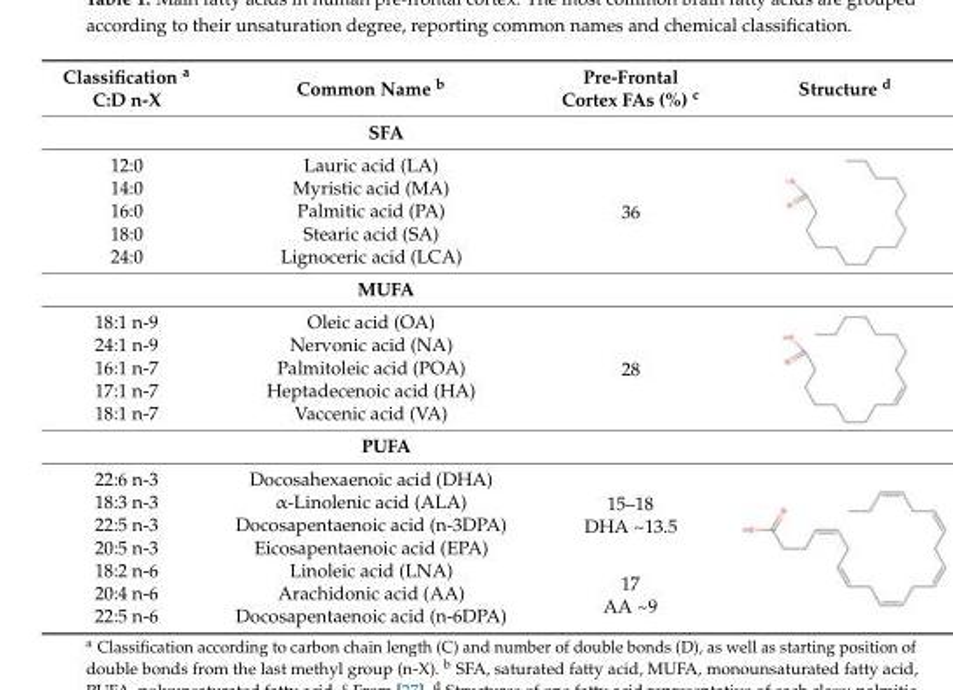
<table><thead><tr><td>Classification <sup>a</sup> C:D n-X</td><td>Common Name <sup>b</sup></td><td>Pre-Frontal Cortex FAs (%) <sup>c</sup></td><td>Structure <sup>d</sup></td></tr></thead><tbody><tr><td colspan="4">SFA</td></tr><tr><td>12:0</td><td>Lauric acid (LA)</td><td rowspan="5">36</td><td rowspan="5"></td></tr><tr><td>14:0</td><td>Myristic acid (MA)</td></tr><tr><td>16:0</td><td>Palmitic acid (PA)</td></tr><tr><td>18:0</td><td>Stearic acid (SA)</td></tr><tr><td>24:0</td><td>Lignoceric acid (LCA)</td></tr><tr><td colspan="4">MUFA</td></tr><tr><td>18:1 n-9</td><td>Oleic acid (OA)</td><td rowspan="5">28</td><td rowspan="5"></td></tr><tr><td>24:1 n-9</td><td>Nervonic acid (NA)</td></tr><tr><td>16:1 n-7</td><td>Palmitoleic acid (POA)</td></tr><tr><td>17:1 n-7</td><td>Heptadecenoic acid (HA)</td></tr><tr><td>18:1 n-7</td><td>Vaccenic acid (VA)</td></tr><tr><td colspan="4">PUFA</td></tr><tr><td>22:6 n-3</td><td>Docosahexaenoic acid (DHA)</td><td rowspan="4">15–18 DHA ~13.5</td><td rowspan="7"></td></tr><tr><td>18:3 n-3</td><td>α-Linolenic acid (ALA)</td></tr><tr><td>22:5 n-3</td><td>Docosapentaenoic acid (n-3DPA)</td></tr><tr><td>20:5 n-3</td><td>Eicosapentaenoic acid (EPA)</td></tr><tr><td>18:2 n-6</td><td>Linoleic acid (LNA)</td><td rowspan="3">17 AA ~9</td></tr><tr><td>20:4 n-6</td><td>Arachidonic acid (AA)</td></tr><tr><td>22:5 n-6</td><td>Docosapentaenoic acid (n-6DPA)</td></tr></tbody></table>